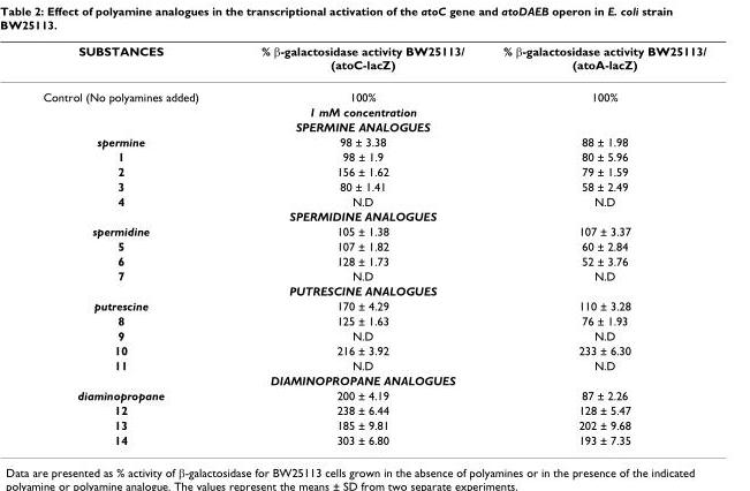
<table><thead><tr><td>SUBSTANCES</td><td>% β-galactosidase activity BW25113/ (atoC-lacZ)</td><td>% β-galactosidase activity BW25113/ (atoA-lacZ)</td></tr></thead><tbody><tr><td>Control (No polyamines added)</td><td>100%</td><td>100%</td></tr><tr><td colspan="3">1 mM concentration</td></tr><tr><td colspan="3">SPERMINE ANALOGUES</td></tr><tr><td>spermine</td><td>98 ± 3.38</td><td>88 ± 1.98</td></tr><tr><td>1</td><td>98 ± 1.9</td><td>80 ± 5.96</td></tr><tr><td>2</td><td>156 ± 1.62</td><td>79 ± 1.59</td></tr><tr><td>3</td><td>80 ± 1.41</td><td>58 ± 2.49</td></tr><tr><td>4</td><td>N.D</td><td>N.D</td></tr><tr><td colspan="3">SPERMIDINE ANALOGUES</td></tr><tr><td>spermidine</td><td>105 ± 1.38</td><td>107 ± 3.37</td></tr><tr><td>5</td><td>107 ± 1.82</td><td>60 ± 2.84</td></tr><tr><td>6</td><td>128 ± 1.73</td><td>52 ± 3.76</td></tr><tr><td>7</td><td>N.D</td><td>N.D</td></tr><tr><td colspan="3">PUTRESCINE ANALOGUES</td></tr><tr><td>putrescine</td><td>170 ± 4.29</td><td>110 ± 3.28</td></tr><tr><td>8</td><td>125 ± 1.63</td><td>76 ± 1.93</td></tr><tr><td>9</td><td>N.D</td><td>N.D</td></tr><tr><td>10</td><td>216 ± 3.92</td><td>233 ± 6.30</td></tr><tr><td>11</td><td>N.D</td><td>N.D</td></tr><tr><td colspan="3">DIAMINOPROPANE ANALOGUES</td></tr><tr><td>diaminopropane</td><td>200 ± 4.19</td><td>87 ± 2.26</td></tr><tr><td>12</td><td>238 ± 6.44</td><td>128 ± 5.47</td></tr><tr><td>13</td><td>185 ± 9.81</td><td>202 ± 9.68</td></tr><tr><td>14</td><td>303 ± 6.80</td><td>193 ± 7.35</td></tr></tbody></table>